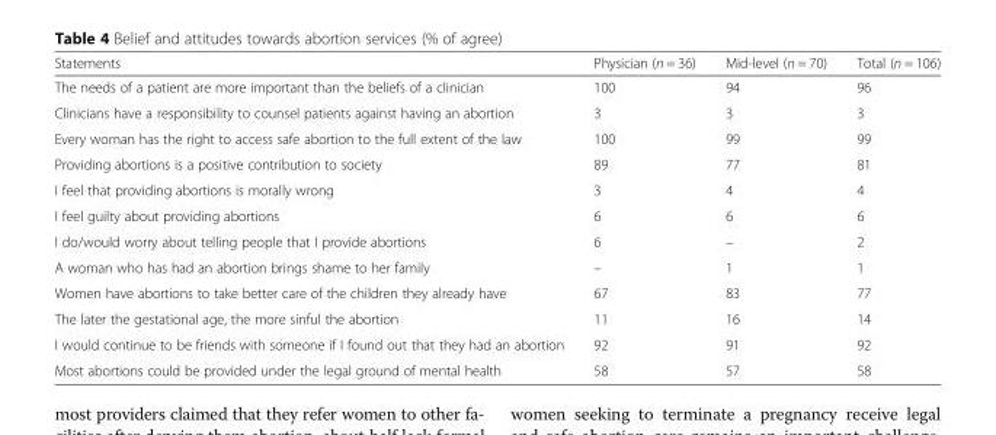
<table><thead><tr><td>Statements</td><td>Physician (n = 36)</td><td>Mid-level (n = 70)</td><td>Total (n = 106)</td></tr></thead><tbody><tr><td>The needs of a patient are more important than the beliefs of a clinician</td><td>100</td><td>94</td><td>96</td></tr><tr><td>Clinicians have a responsibility to counsel patients against having an abortion</td><td>3</td><td>3</td><td>3</td></tr><tr><td>Every woman has the right to access safe abortion to the full extent of the law</td><td>100</td><td>99</td><td>99</td></tr><tr><td>Providing abortions is a positive contribution to society</td><td>89</td><td>77</td><td>81</td></tr><tr><td>I feel that providing abortions is morally wrong</td><td>3</td><td>4</td><td>4</td></tr><tr><td>I feel guilty about providing abortions</td><td>6</td><td>6</td><td>6</td></tr><tr><td>I do/would worry about telling people that I provide abortions</td><td>6</td><td>–</td><td>2</td></tr><tr><td>A woman who has had an abortion brings shame to her family</td><td>–</td><td>1</td><td>1</td></tr><tr><td>Women have abortions to take better care of the children they already have</td><td>67</td><td>83</td><td>77</td></tr><tr><td>The later the gestational age, the more sinful the abortion</td><td>11</td><td>16</td><td>14</td></tr><tr><td>I would continue to be friends with someone if I found out that they had an abortion</td><td>92</td><td>91</td><td>92</td></tr><tr><td>Most abortions could be provided under the legal ground of mental health</td><td>58</td><td>57</td><td>58</td></tr></tbody></table>